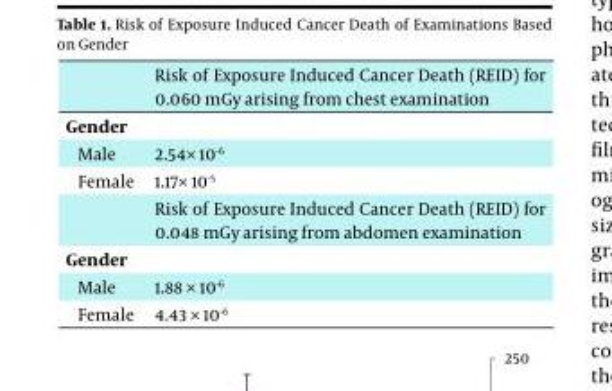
<table><thead><tr><td></td><td>Risk of Exposure Induced Cancer Death (REID) for 0.060 mGy arising from chest examination</td></tr></thead><tbody><tr><td colspan="2">Gender</td></tr><tr><td>Male</td><td>2.54× 10<sup>-6</sup></td></tr><tr><td rowspan="2">Female</td><td>1.17× 10<sup>-5</sup></td></tr><tr><td>Risk of Exposure Induced Cancer Death (REID) for 0.048 mGy arising from abdomen examination</td></tr><tr><td colspan="2">Gender</td></tr><tr><td>Male</td><td>1.88 × 10<sup>-6</sup></td></tr><tr><td>Female</td><td>4.43 × 10<sup>-6</sup></td></tr></tbody></table>